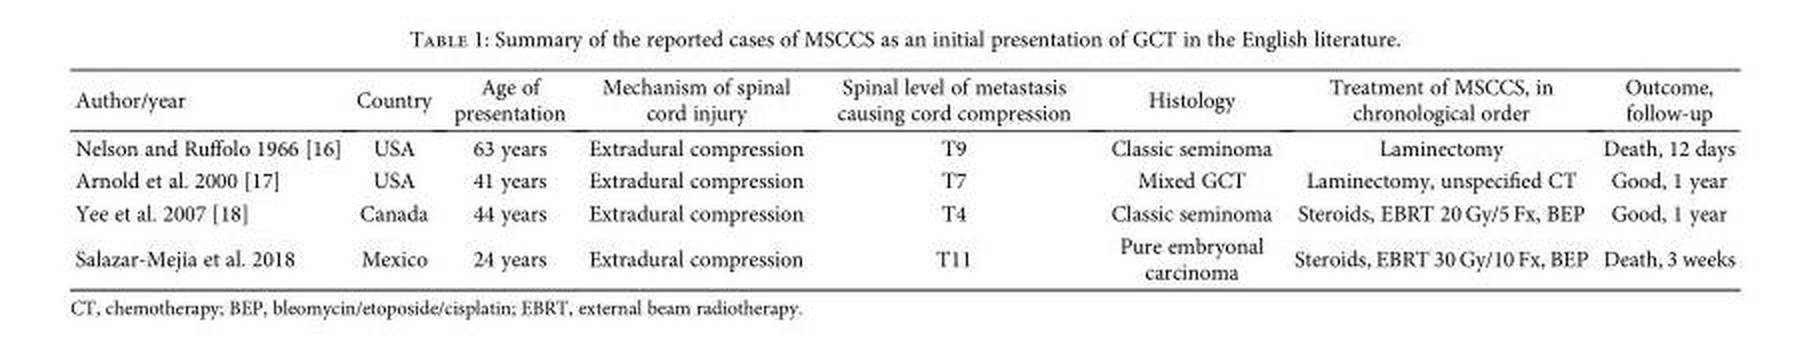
<table><thead><tr><td>Author/year</td><td>Country</td><td>Age of presentation</td><td>Mechanism of spinal cord injury</td><td>Spinal level of metastasis causing cord compression</td><td>Histology</td><td>Treatment of MSCCS, in chronological order</td><td>Outcome, follow-up</td></tr></thead><tbody><tr><td>Nelson and Ruffolo 1966 [16]</td><td>USA</td><td>63 years</td><td>Extradural compression</td><td>T9</td><td>Classic seminoma</td><td>Laminectomy</td><td>Death, 12 days</td></tr><tr><td>Arnold et al. 2000 [17]</td><td>USA</td><td>41 years</td><td>Extradural compression</td><td>T7</td><td>Mixed GCT</td><td>Laminectomy, unspecified CT</td><td>Good, 1 year</td></tr><tr><td>Yee et al. 2007 [18]</td><td>Canada</td><td>44 years</td><td>Extradural compression</td><td>T4</td><td>Classic seminoma</td><td>Steroids, EBRT 20 Gy/5 Fx, BEP</td><td>Good, 1 year</td></tr><tr><td>Salazar-Mejía et al. 2018</td><td>Mexico</td><td>24 years</td><td>Extradural compression</td><td>T11</td><td>Pure embryonal carcinoma</td><td>Steroids, EBRT 30 Gy/10 Fx, BEP</td><td>Death, 3 weeks</td></tr></tbody></table>